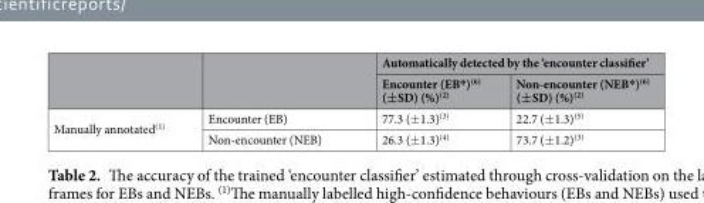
<table><thead><tr><td rowspan="2"></td><td rowspan="2"></td><td colspan="2">Automatically detected by the ‘encounter classifier’</td></tr><tr><td>Encounter (EB*)<sup>(6)</sup> (±SD) (%)<sup>(2)</sup></td><td>Non-encounter (NEB*)<sup>(6)</sup> (±SD) (%)<sup>(2)</sup></td></tr></thead><tbody><tr><td rowspan="2">Manually annotated<sup>(1)</sup></td><td>Encounter (EB)</td><td>77.3 (±1.3)<sup>(3)</sup></td><td>22.7 (±1.3)<sup>(5)</sup></td></tr><tr><td>Non-encounter (NEB)</td><td>26.3 (±1.3)<sup>(4)</sup></td><td>73.7 (±1.2)<sup>(3)</sup></td></tr></tbody></table>